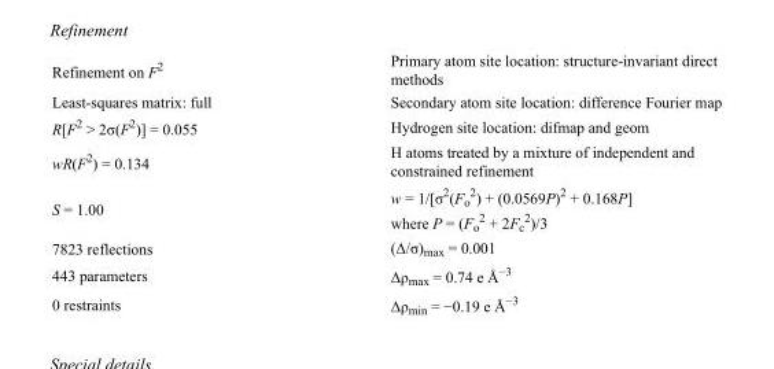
<table><tbody><tr><td>Refinement on F<sup>2</sup></td><td>Primary atom site location: structure-invariant direct methods</td></tr><tr><td>Least-squares matrix: full</td><td>Secondary atom site location: difference Fourier map</td></tr><tr><td>R[F<sup>2</sup> &gt; 2σ(F<sup>2</sup>)] = 0.055</td><td>Hydrogen site location: difmap and geom</td></tr><tr><td>wR(F<sup>2</sup>) = 0.134</td><td>H atoms treated by a mixture of independent and constrained refinement</td></tr><tr><td>S = 1.00</td><td>w = 1/[σ<sup>2</sup>(F<sub>o</sub> <sup>2</sup>) + (0.0569P)<sup>2</sup> + 0.168P] where P = (F<sub>o</sub> <sup>2</sup> + 2F<sub>c</sub> <sup>2</sup>)/3</td></tr><tr><td>7823 reflections</td><td>(Δ/σ)<sub>max</sub> = 0.001</td></tr><tr><td>443 parameters</td><td>Δρ<sub>max</sub> = 0.74 e Å<sup>−3</sup></td></tr><tr><td>0 restraints</td><td>Δρ<sub>min</sub> = −0.19 e Å<sup>−3</sup></td></tr></tbody></table>